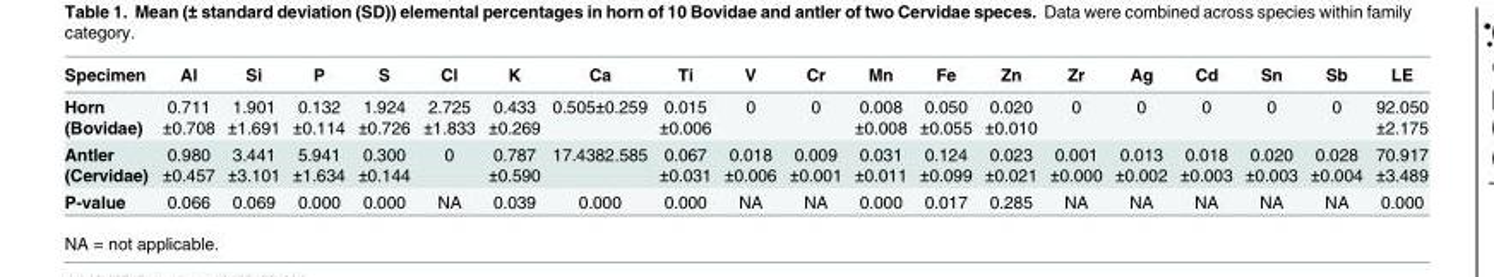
<table><thead><tr><td>Specimen</td><td>Al</td><td>Si</td><td>P</td><td>S</td><td>Cl</td><td>K</td><td>Ca</td><td>Ti</td><td>V</td><td>Cr</td><td>Mn</td><td>Fe</td><td>Zn</td><td>Zr</td><td>Ag</td><td>Cd</td><td>Sn</td><td>Sb</td><td>LE</td></tr></thead><tbody><tr><td>Horn (Bovidae)</td><td>0.711 ±0.708</td><td>1.901 ±1.691</td><td>0.132 ±0.114</td><td>1.924 ±0.726</td><td>2.725 ±1.833</td><td>0.433 ±0.269</td><td>0.505±0.259</td><td>0.015 ±0.006</td><td>0</td><td>0</td><td>0.008 ±0.008</td><td>0.050 ±0.055</td><td>0.020 ±0.010</td><td>0</td><td>0</td><td>0</td><td>0</td><td>0</td><td>92.050 ±2.175</td></tr><tr><td>Antler (Cervidae)</td><td>0.980 ±0.457</td><td>3.441 ±3.101</td><td>5.941 ±1.634</td><td>0.300 ±0.144</td><td>0</td><td>0.787 ±0.590</td><td>17.4382.585</td><td>0.067 ±0.031</td><td>0.018 ±0.006</td><td>0.009 ±0.001</td><td>0.031 ±0.011</td><td>0.124 ±0.099</td><td>0.023 ±0.021</td><td>0.001 ±0.000</td><td>0.013 ±0.002</td><td>0.018 ±0.003</td><td>0.020 ±0.003</td><td>0.028 ±0.004</td><td>70.917 ±3.489</td></tr><tr><td>P-value</td><td>0.066</td><td>0.069</td><td>0.000</td><td>0.000</td><td>NA</td><td>0.039</td><td>0.000</td><td>0.000</td><td>NA</td><td>NA</td><td>0.000</td><td>0.017</td><td>0.285</td><td>NA</td><td>NA</td><td>NA</td><td>NA</td><td>NA</td><td>0.000</td></tr></tbody></table>